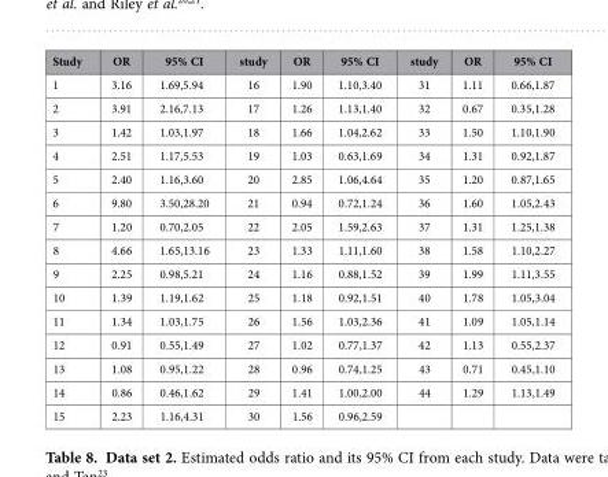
<table><thead><tr><td>Study</td><td>OR</td><td>95% CI</td><td>study</td><td>OR</td><td>95% CI</td><td>study</td><td>OR</td><td>95% CI</td></tr></thead><tbody><tr><td>1</td><td>3.16</td><td>1.69,5.94</td><td>16</td><td>1.90</td><td>1.10,3.40</td><td>31</td><td>1.11</td><td>0.66,1.87</td></tr><tr><td>2</td><td>3.91</td><td>2.16,7.13</td><td>17</td><td>1.26</td><td>1.13,1.40</td><td>32</td><td>0.67</td><td>0.35,1.28</td></tr><tr><td>3</td><td>1.42</td><td>1.03,1.97</td><td>18</td><td>1.66</td><td>1.04,2.62</td><td>33</td><td>1.50</td><td>1.10,1.90</td></tr><tr><td>4</td><td>2.51</td><td>1.17,5.53</td><td>19</td><td>1.03</td><td>0.63,1.69</td><td>34</td><td>1.31</td><td>0.92,1.87</td></tr><tr><td>5</td><td>2.40</td><td>1.16,3.60</td><td>20</td><td>2.85</td><td>1.06,4.64</td><td>35</td><td>1.20</td><td>0.87,1.65</td></tr><tr><td>6</td><td>9.80</td><td>3.50,28.20</td><td>21</td><td>0.94</td><td>0.72,1.24</td><td>36</td><td>1.60</td><td>1.05,2.43</td></tr><tr><td>7</td><td>1.20</td><td>0.70,2.05</td><td>22</td><td>2.05</td><td>1.59,2.63</td><td>37</td><td>1.31</td><td>1.25,1.38</td></tr><tr><td>8</td><td>4.66</td><td>1.65,13.16</td><td>23</td><td>1.33</td><td>1.11,1.60</td><td>38</td><td>1.58</td><td>1.10,2.27</td></tr><tr><td>9</td><td>2.25</td><td>0.98,5.21</td><td>24</td><td>1.16</td><td>0.88,1.52</td><td>39</td><td>1.99</td><td>1.11,3.55</td></tr><tr><td>10</td><td>1.39</td><td>1.19,1.62</td><td>25</td><td>1.18</td><td>0.92,1.51</td><td>40</td><td>1.78</td><td>1.05,3.04</td></tr><tr><td>11</td><td>1.34</td><td>1.03,1.75</td><td>26</td><td>1.56</td><td>1.03,2.36</td><td>41</td><td>1.09</td><td>1.05,1.14</td></tr><tr><td>12</td><td>0.91</td><td>0.55,1.49</td><td>27</td><td>1.02</td><td>0.77,1.37</td><td>42</td><td>1.13</td><td>0.55,2.37</td></tr><tr><td>13</td><td>1.08</td><td>0.95,1.22</td><td>28</td><td>0.96</td><td>0.74,1.25</td><td>43</td><td>0.71</td><td>0.45,1.10</td></tr><tr><td>14</td><td>0.86</td><td>0.46,1.62</td><td>29</td><td>1.41</td><td>1.00,2.00</td><td>44</td><td>1.29</td><td>1.13,1.49</td></tr><tr><td>15</td><td>2.23</td><td>1.16,4.31</td><td>30</td><td>1.56</td><td>0.96,2.59</td><td></td><td></td><td></td></tr></tbody></table>